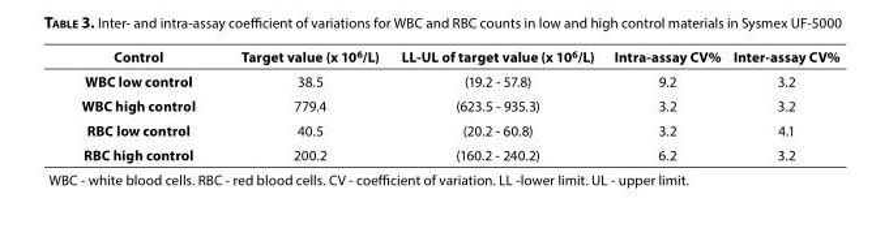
<table><thead><tr><td>Control</td><td>Target value (x 10<sup>6</sup>/L)</td><td>LL-UL of target value (x 10<sup>6</sup>/L)</td><td>Intra-assay CV%</td><td>Inter-assay CV%</td></tr></thead><tbody><tr><td>WBC low control</td><td>38.5</td><td>(19.2 - 57.8)</td><td>9.2</td><td>3.2</td></tr><tr><td>WBC high control</td><td>779.4</td><td>(623.5 - 935.3)</td><td>3.2</td><td>3.2</td></tr><tr><td>RBC low control</td><td>40.5</td><td>(20.2 - 60.8)</td><td>3.2</td><td>4.1</td></tr><tr><td>RBC high control</td><td>200.2</td><td>(160.2 - 240.2)</td><td>6.2</td><td>3.2</td></tr><tr><td colspan="5">WBC - white blood cells. RBC - red blood cells. CV - coefficient of variation. LL -lower limit. UL - upper limit.</td></tr></tbody></table>